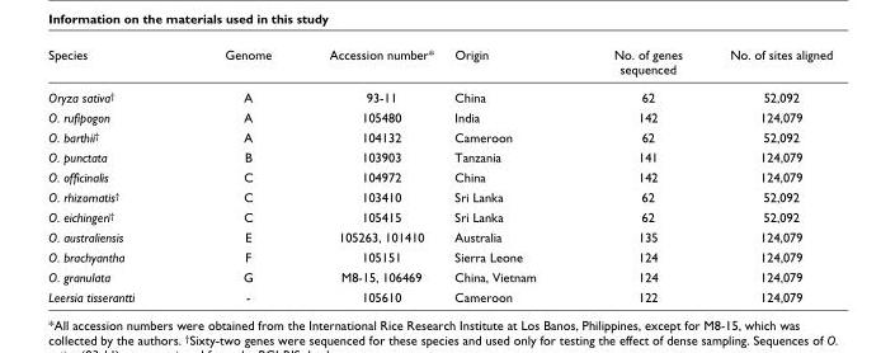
<table><thead><tr><td>Species</td><td>Genome</td><td>Accession number*</td><td>Origin</td><td>No. of genes sequenced</td><td>No. of sites aligned</td></tr></thead><tbody><tr><td>Oryza sativa<sup>†</sup></td><td>A</td><td>93-11</td><td>China</td><td>62</td><td>52,092</td></tr><tr><td>O. rufipogon</td><td>A</td><td>105480</td><td>India</td><td>142</td><td>124,079</td></tr><tr><td>O. barthii<sup>†</sup></td><td>A</td><td>104132</td><td>Cameroon</td><td>62</td><td>52,092</td></tr><tr><td>O. punctata</td><td>B</td><td>103903</td><td>Tanzania</td><td>141</td><td>124,079</td></tr><tr><td>O. officinalis</td><td>C</td><td>104972</td><td>China</td><td>142</td><td>124,079</td></tr><tr><td>O. rhizomatis<sup>†</sup></td><td>C</td><td>103410</td><td>Sri Lanka</td><td>62</td><td>52,092</td></tr><tr><td>O. eichingeri<sup>†</sup></td><td>C</td><td>105415</td><td>Sri Lanka</td><td>62</td><td>52,092</td></tr><tr><td>O. australiensis</td><td>E</td><td>105263, 101410</td><td>Australia</td><td>135</td><td>124,079</td></tr><tr><td>O. brachyantha</td><td>F</td><td>105151</td><td>Sierra Leone</td><td>124</td><td>124,079</td></tr><tr><td>O. granulata</td><td>G</td><td>M8-15, 106469</td><td>China, Vietnam</td><td>124</td><td>124,079</td></tr><tr><td>Leersia tisserantti</td><td>-</td><td>105610</td><td>Cameroon</td><td>122</td><td>124,079</td></tr></tbody></table>